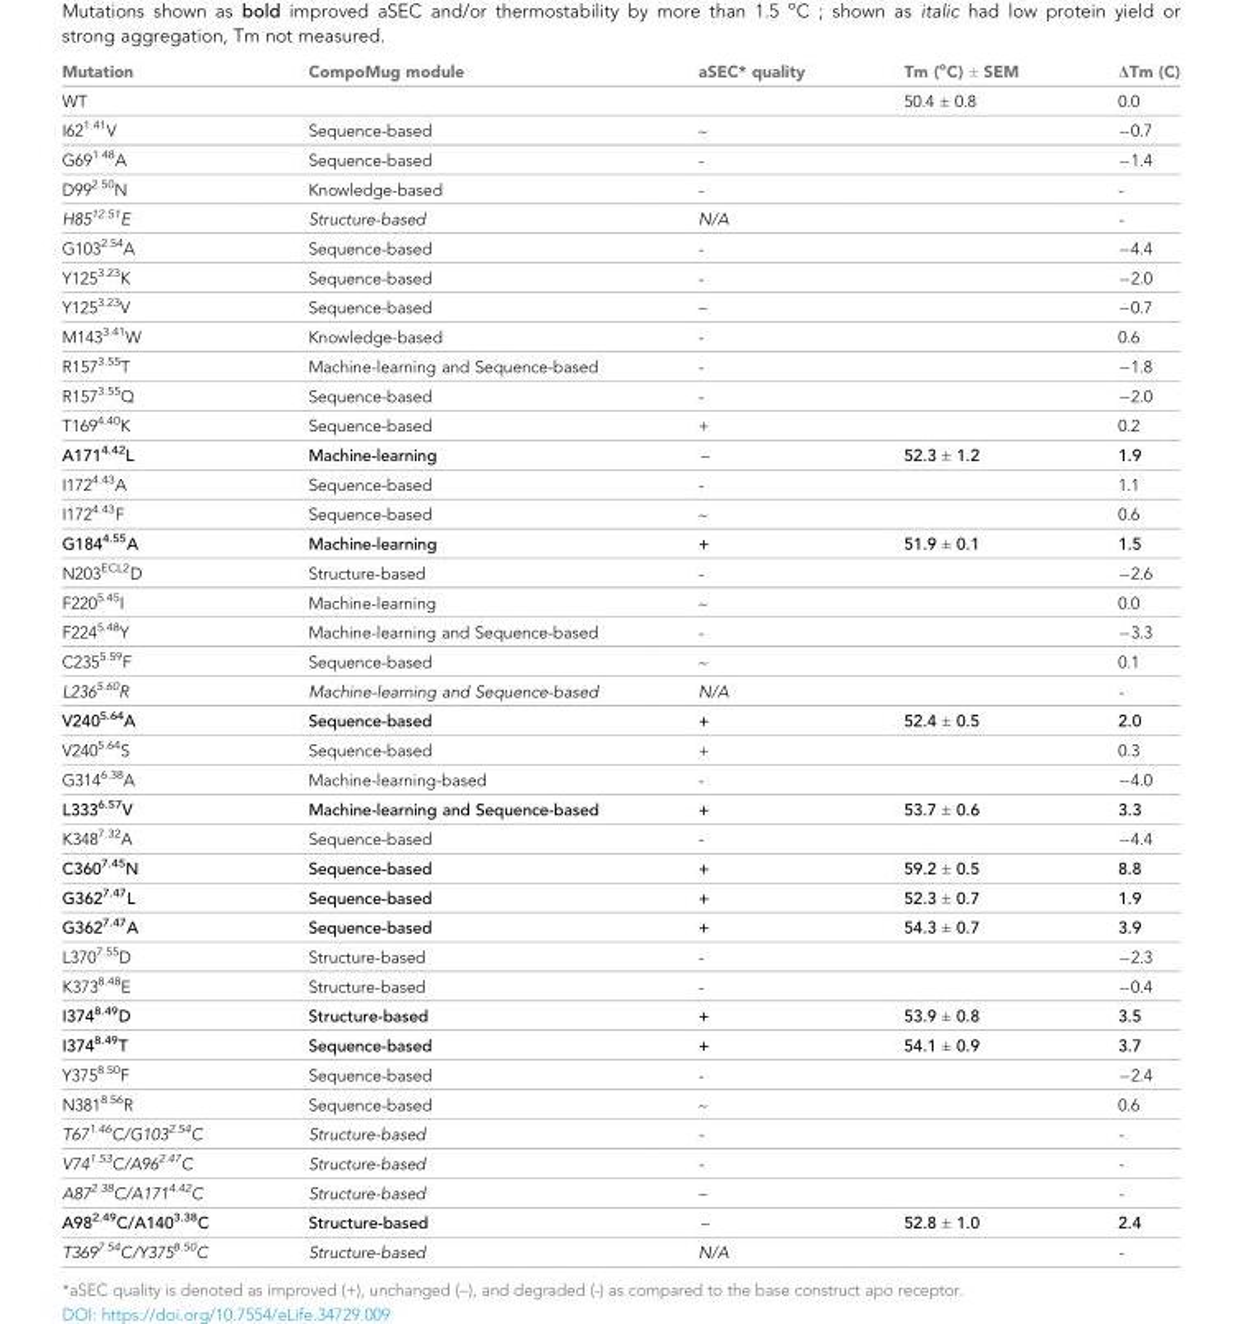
<table><thead><tr><td>Mutation</td><td>CompoMug module</td><td>aSEC* quality</td><td>Tm (<sup>o</sup>C) ± SEM</td><td>ΔTm (C)</td></tr></thead><tbody><tr><td>WT</td><td></td><td></td><td>50.4 ± 0.8</td><td>0.0</td></tr><tr><td>I62<sup>1.41</sup>V</td><td>Sequence-based</td><td>~</td><td></td><td>−0.7</td></tr><tr><td>G69<sup>1.48</sup>A</td><td>Sequence-based</td><td>-</td><td></td><td>−1.4</td></tr><tr><td>D99<sup>2.50</sup>N</td><td>Knowledge-based</td><td>-</td><td></td><td>-</td></tr><tr><td>H85<sup>12.51</sup>E</td><td>Structure-based</td><td>N/A</td><td></td><td>-</td></tr><tr><td>G103<sup>2.54</sup>A</td><td>Sequence-based</td><td>-</td><td></td><td>−4.4</td></tr><tr><td>Y125<sup>3.23</sup>K</td><td>Sequence-based</td><td>-</td><td></td><td>−2.0</td></tr><tr><td>Y125<sup>3.23</sup>V</td><td>Sequence-based</td><td>~</td><td></td><td>−0.7</td></tr><tr><td>M143<sup>3.41</sup>W</td><td>Knowledge-based</td><td>-</td><td></td><td>0.6</td></tr><tr><td>R157<sup>3.55</sup>T</td><td>Machine-learning and Sequence-based</td><td>-</td><td></td><td>−1.8</td></tr><tr><td>R157<sup>3.55</sup>Q</td><td>Sequence-based</td><td>-</td><td></td><td>−2.0</td></tr><tr><td>T169<sup>4.40</sup>K</td><td>Sequence-based</td><td>+</td><td></td><td>0.2</td></tr><tr><td>A171<sup>4.42</sup>L</td><td>Machine-learning</td><td>~</td><td>52.3 ± 1.2</td><td>1.9</td></tr><tr><td>I172<sup>4.43</sup>A</td><td>Sequence-based</td><td>-</td><td></td><td>1.1</td></tr><tr><td>I172<sup>4.43</sup>F</td><td>Sequence-based</td><td>~</td><td></td><td>0.6</td></tr><tr><td>G184<sup>4.55</sup>A</td><td>Machine-learning</td><td>+</td><td>51.9 ± 0.1</td><td>1.5</td></tr><tr><td>N203<sup>ECL2</sup>D</td><td>Structure-based</td><td>-</td><td></td><td>−2.6</td></tr><tr><td>F220<sup>5.45</sup>I</td><td>Machine-learning</td><td>~</td><td></td><td>0.0</td></tr><tr><td>F224<sup>5.48</sup>Y</td><td>Machine-learning and Sequence-based</td><td>-</td><td></td><td>−3.3</td></tr><tr><td>C235<sup>5.59</sup>F</td><td>Sequence-based</td><td>~</td><td></td><td>0.1</td></tr><tr><td>L236<sup>5.60</sup>R</td><td>Machine-learning and Sequence-based</td><td>N/A</td><td></td><td>-</td></tr><tr><td>V240<sup>5.64</sup>A</td><td>Sequence-based</td><td>+</td><td>52.4 ± 0.5</td><td>2.0</td></tr><tr><td>V240<sup>5.64</sup>S</td><td>Sequence-based</td><td>+</td><td></td><td>0.3</td></tr><tr><td>G314<sup>6.38</sup>A</td><td>Machine-learning-based</td><td>-</td><td></td><td>−4.0</td></tr><tr><td>L333<sup>6.57</sup>V</td><td>Machine-learning and Sequence-based</td><td>+</td><td>53.7 ± 0.6</td><td>3.3</td></tr><tr><td>K348<sup>7.32</sup>A</td><td>Sequence-based</td><td>-</td><td></td><td>−4.4</td></tr><tr><td>C360<sup>7.45</sup>N</td><td>Sequence-based</td><td>+</td><td>59.2 ± 0.5</td><td>8.8</td></tr><tr><td>G362<sup>7.47</sup>L</td><td>Sequence-based</td><td>+</td><td>52.3 ± 0.7</td><td>1.9</td></tr><tr><td>G362<sup>7.47</sup>A</td><td>Sequence-based</td><td>+</td><td>54.3 ± 0.7</td><td>3.9</td></tr><tr><td>L370<sup>7.55</sup>D</td><td>Structure-based</td><td>-</td><td></td><td>−2.3</td></tr><tr><td>K373<sup>8.48</sup>E</td><td>Structure-based</td><td>-</td><td></td><td>−0.4</td></tr><tr><td>I374<sup>8.49</sup>D</td><td>Structure-based</td><td>+</td><td>53.9 ± 0.8</td><td>3.5</td></tr><tr><td>I374<sup>8.49</sup>T</td><td>Sequence-based</td><td>+</td><td>54.1 ± 0.9</td><td>3.7</td></tr><tr><td>Y375<sup>8.50</sup>F</td><td>Sequence-based</td><td>-</td><td></td><td>−2.4</td></tr><tr><td>N381<sup>8.56</sup>R</td><td>Sequence-based</td><td>~</td><td></td><td>0.6</td></tr><tr><td>T67<sup>1.46</sup>C/G103<sup>2.54</sup>C</td><td>Structure-based</td><td>-</td><td></td><td>-</td></tr><tr><td>V74<sup>1.53</sup>C/A96<sup>2.47</sup>C</td><td>Structure-based</td><td>-</td><td></td><td>-</td></tr><tr><td>A87<sup>2.38</sup>C/A171<sup>4.42</sup>C</td><td>Structure-based</td><td>~</td><td></td><td>-</td></tr><tr><td>A98<sup>2.49</sup>C/A140<sup>3.38</sup>C</td><td>Structure-based</td><td>~</td><td>52.8 ± 1.0</td><td>2.4</td></tr><tr><td>T369<sup>7.54</sup>C/Y375<sup>8.50</sup>C</td><td>Structure-based</td><td>N/A</td><td></td><td>-</td></tr></tbody></table>